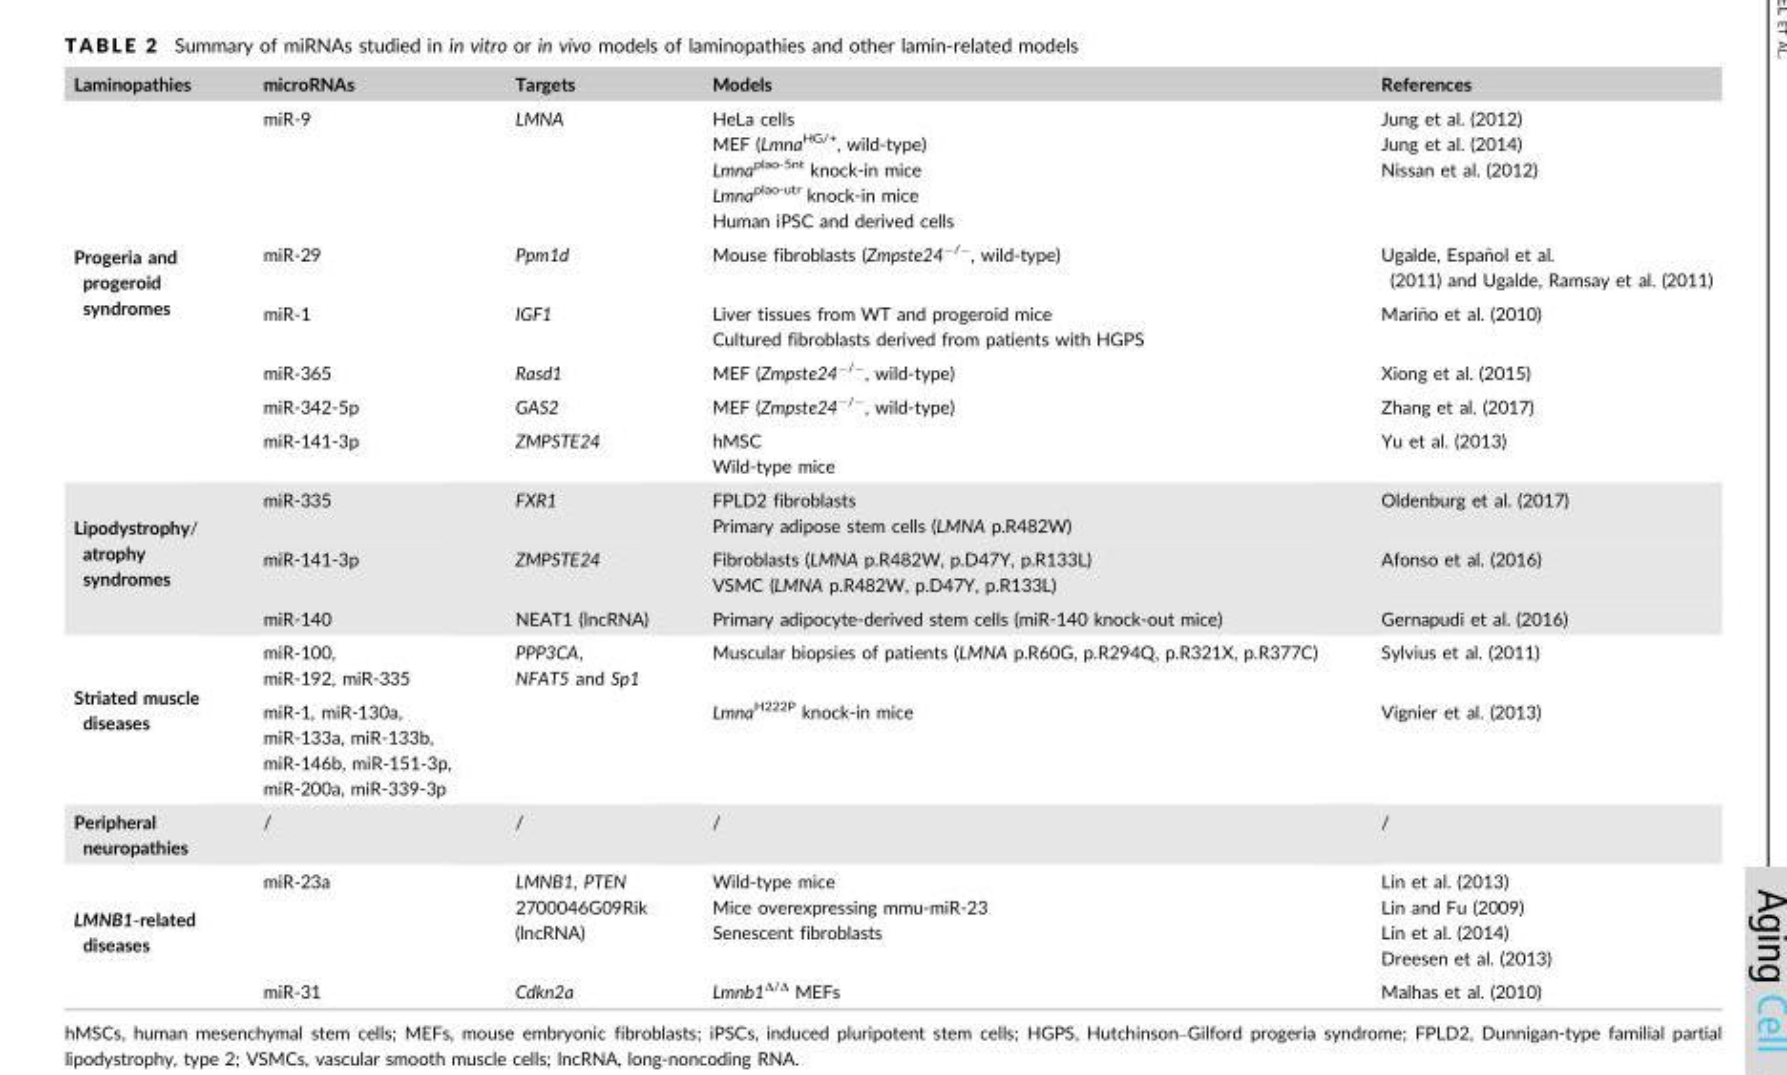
<table><thead><tr><td>Laminopathies</td><td>microRNAs</td><td>Targets</td><td>Models</td><td>References</td></tr></thead><tbody><tr><td rowspan="6">Progeria and progeroid syndromes</td><td>miR-9</td><td>LMNA</td><td>HeLa cells MEF (Lmna<sup>HG/+</sup>, wild-type) Lmna<sup>plao-5nt</sup> knock-in mice Lmna<sup>plao-utr</sup> knock-in mice Human iPSC and derived cells</td><td>Jung et al. (2012) Jung et al. (2014) Nissan et al. (2012)</td></tr><tr><td>miR-29</td><td>Ppm1d</td><td>Mouse fibroblasts (Zmpste24<sup>−/−</sup>, wild-type)</td><td>Ugalde, Espa~nol et al. (2011) and Ugalde, Ramsay et al. (2011)</td></tr><tr><td>miR-1</td><td>IGF1</td><td>Liver tissues from WT and progeroid mice Cultured fibroblasts derived from patients with HGPS</td><td>Mari~no et al. (2010)</td></tr><tr><td>miR-365</td><td>Rasd1</td><td>MEF (Zmpste24<sup>−/−</sup>, wild-type)</td><td>Xiong et al. (2015)</td></tr><tr><td>miR-342-5p</td><td>GAS2</td><td>MEF (Zmpste24<sup>−/−</sup>, wild-type)</td><td>Zhang et al. (2017)</td></tr><tr><td>miR-141-3p</td><td>ZMPSTE24</td><td>hMSC Wild-type mice</td><td>Yu et al. (2013)</td></tr><tr><td rowspan="3">Lipodystrophy/ atrophy syndromes</td><td>miR-335</td><td>FXR1</td><td>FPLD2 fibroblasts Primary adipose stem cells (LMNA p.R482W)</td><td>Oldenburg et al. (2017)</td></tr><tr><td>miR-141-3p</td><td>ZMPSTE24</td><td>Fibroblasts (LMNA p.R482W, p.D47Y, p.R133L) VSMC (LMNA p.R482W, p.D47Y, p.R133L)</td><td>Afonso et al. (2016)</td></tr><tr><td>miR-140</td><td>NEAT1 (lncRNA)</td><td>Primary adipocyte-derived stem cells (miR-140 knock-out mice)</td><td>Gernapudi et al. (2016)</td></tr><tr><td rowspan="2">Striated muscle diseases</td><td>miR-100, miR-192, miR-335</td><td>PPP3CA, NFAT5 and Sp1</td><td>Muscular biopsies of patients (LMNA p.R60G, p.R294Q, p.R321X, p.R377C)</td><td>Sylvius et al. (2011)</td></tr><tr><td>miR-1, miR-130a, miR-133a, miR-133b, miR-146b, miR-151-3p, miR-200a, miR-339-3p</td><td></td><td>Lmna<sup>H222P</sup> knock-in mice</td><td>Vignier et al. (2013)</td></tr><tr><td>Peripheral neuropathies</td><td>/</td><td>/</td><td>/</td><td>/</td></tr><tr><td rowspan="2">LMNB1-related diseases</td><td>miR-23a</td><td>LMNB1, PTEN 2700046G09Rik (lncRNA)</td><td>Wild-type mice Mice overexpressing mmu-miR-23 Senescent fibroblasts</td><td>Lin et al. (2013) Lin and Fu (2009) Lin et al. (2014) Dreesen et al. (2013)</td></tr><tr><td>miR-31</td><td>Cdkn2a</td><td>Lmnb1<sup>Δ/Δ</sup> MEFs</td><td>Malhas et al. (2010)</td></tr></tbody></table>